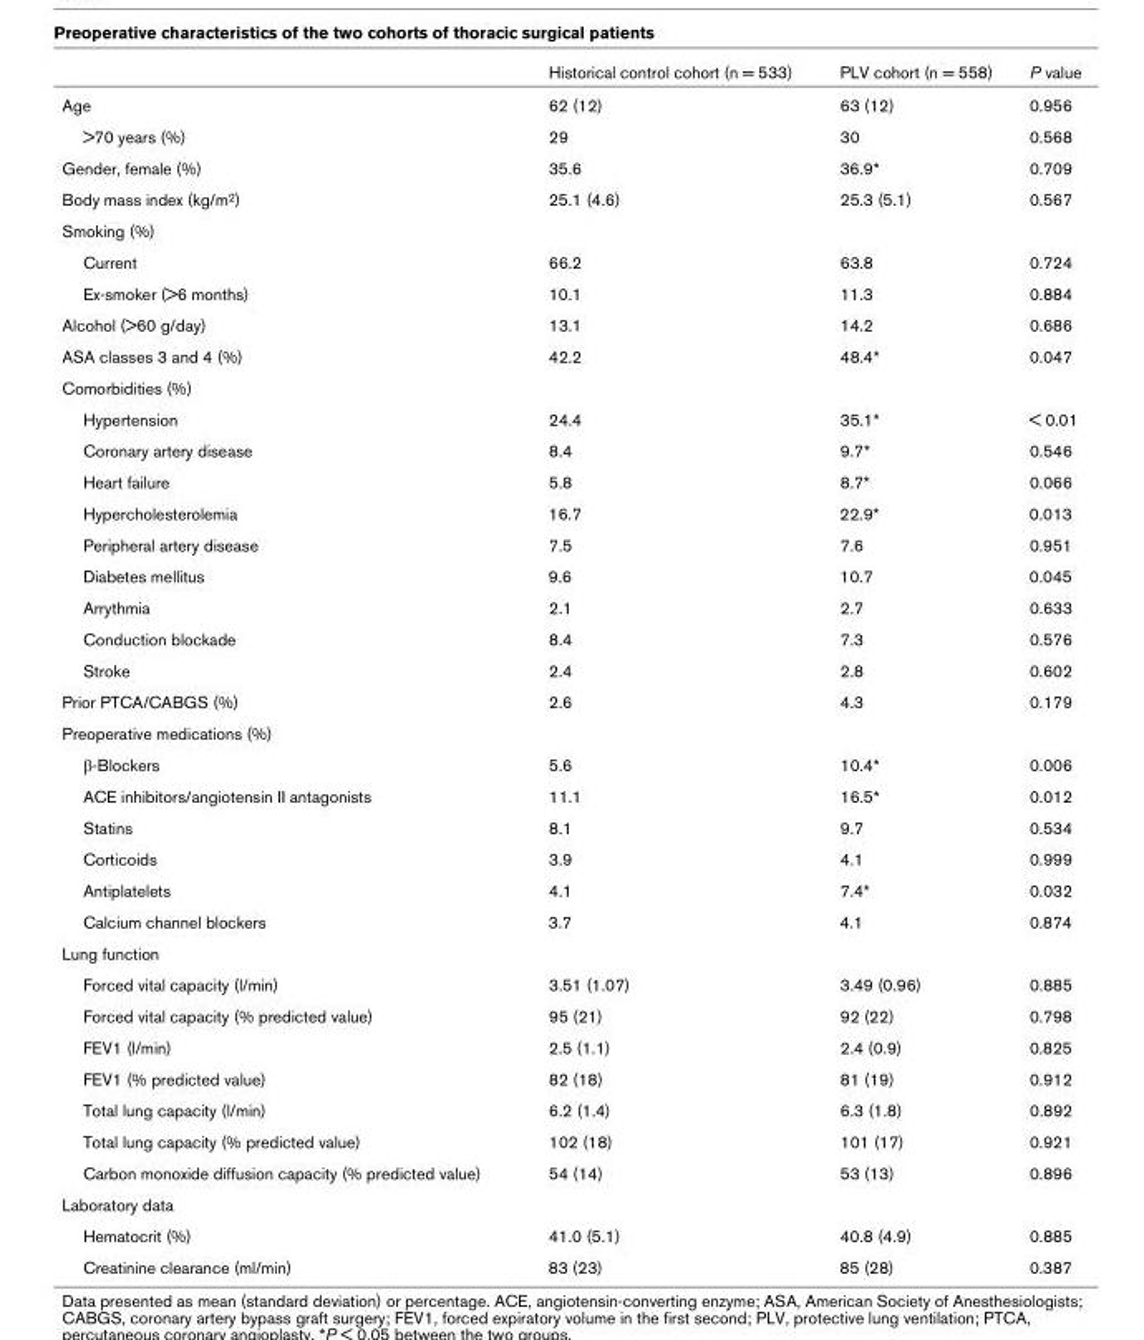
<table><thead><tr><td></td><td>Historical control cohort (n = 533)</td><td>PLV cohort (n = 558)</td><td>P value</td></tr></thead><tbody><tr><td>Age</td><td>62 (12)</td><td>63 (12)</td><td>0.956</td></tr><tr><td>&gt;70 years (%)</td><td>29</td><td>30</td><td>0.568</td></tr><tr><td>Gender, female (%)</td><td>35.6</td><td>36.9*</td><td>0.709</td></tr><tr><td>Body mass index (kg/m<sup>2</sup>)</td><td>25.1 (4.6)</td><td>25.3 (5.1)</td><td>0.567</td></tr><tr><td colspan="4">Smoking (%)</td></tr><tr><td>Current</td><td>66.2</td><td>63.8</td><td>0.724</td></tr><tr><td>Ex-smoker (&gt;6 months)</td><td>10.1</td><td>11.3</td><td>0.884</td></tr><tr><td>Alcohol (&gt;60 g/day)</td><td>13.1</td><td>14.2</td><td>0.686</td></tr><tr><td>ASA classes 3 and 4 (%)</td><td>42.2</td><td>48.4*</td><td>0.047</td></tr><tr><td colspan="4">Comorbidities (%)</td></tr><tr><td>Hypertension</td><td>24.4</td><td>35.1*</td><td>&lt; 0.01</td></tr><tr><td>Coronary artery disease</td><td>8.4</td><td>9.7*</td><td>0.546</td></tr><tr><td>Heart failure</td><td>5.8</td><td>8.7*</td><td>0.066</td></tr><tr><td>Hypercholesterolemia</td><td>16.7</td><td>22.9*</td><td>0.013</td></tr><tr><td>Peripheral artery disease</td><td>7.5</td><td>7.6</td><td>0.951</td></tr><tr><td>Diabetes mellitus</td><td>9.6</td><td>10.7</td><td>0.045</td></tr><tr><td>Arrythmia</td><td>2.1</td><td>2.7</td><td>0.633</td></tr><tr><td>Conduction blockade</td><td>8.4</td><td>7.3</td><td>0.576</td></tr><tr><td>Stroke</td><td>2.4</td><td>2.8</td><td>0.602</td></tr><tr><td>Prior PTCA/CABGS (%)</td><td>2.6</td><td>4.3</td><td>0.179</td></tr><tr><td colspan="4">Preoperative medications (%)</td></tr><tr><td>β-Blockers</td><td>5.6</td><td>10.4*</td><td>0.006</td></tr><tr><td>ACE inhibitors/angiotensin II antagonists</td><td>11.1</td><td>16.5*</td><td>0.012</td></tr><tr><td>Statins</td><td>8.1</td><td>9.7</td><td>0.534</td></tr><tr><td>Corticoids</td><td>3.9</td><td>4.1</td><td>0.999</td></tr><tr><td>Antiplatelets</td><td>4.1</td><td>7.4*</td><td>0.032</td></tr><tr><td>Calcium channel blockers</td><td>3.7</td><td>4.1</td><td>0.874</td></tr><tr><td colspan="4">Lung function</td></tr><tr><td>Forced vital capacity (l/min)</td><td>3.51 (1.07)</td><td>3.49 (0.96)</td><td>0.885</td></tr><tr><td>Forced vital capacity (% predicted value)</td><td>95 (21)</td><td>92 (22)</td><td>0.798</td></tr><tr><td>FEV1 (l/min)</td><td>2.5 (1.1)</td><td>2.4 (0.9)</td><td>0.825</td></tr><tr><td>FEV1 (% predicted value)</td><td>82 (18)</td><td>81 (19)</td><td>0.912</td></tr><tr><td>Total lung capacity (l/min)</td><td>6.2 (1.4)</td><td>6.3 (1.8)</td><td>0.892</td></tr><tr><td>Total lung capacity (% predicted value)</td><td>102 (18)</td><td>101 (17)</td><td>0.921</td></tr><tr><td>Carbon monoxide diffusion capacity (% predicted value)</td><td>54 (14)</td><td>53 (13)</td><td>0.896</td></tr><tr><td colspan="4">Laboratory data</td></tr><tr><td>Hematocrit (%)</td><td>41.0 (5.1)</td><td>40.8 (4.9)</td><td>0.885</td></tr><tr><td>Creatinine clearance (ml/min)</td><td>83 (23)</td><td>85 (28)</td><td>0.387</td></tr></tbody></table>